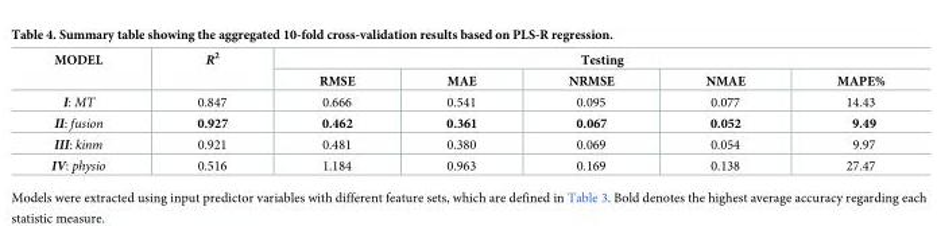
<table><thead><tr><td rowspan="2">MODEL</td><td rowspan="2">R<sup>2</sup></td><td colspan="5">Testing</td></tr><tr><td>RMSE</td><td>MAE</td><td>NRMSE</td><td>NMAE</td><td>MAPE%</td></tr></thead><tbody><tr><td>I: MT</td><td>0.847</td><td>0.666</td><td>0.541</td><td>0.095</td><td>0.077</td><td>14.43</td></tr><tr><td>II: fusion</td><td>0.927</td><td>0.462</td><td>0.361</td><td>0.067</td><td>0.052</td><td>9.49</td></tr><tr><td>III: kinm</td><td>0.921</td><td>0.481</td><td>0.380</td><td>0.069</td><td>0.054</td><td>9.97</td></tr><tr><td>IV: physio</td><td>0.516</td><td>1.184</td><td>0.963</td><td>0.169</td><td>0.138</td><td>27.47</td></tr></tbody></table>